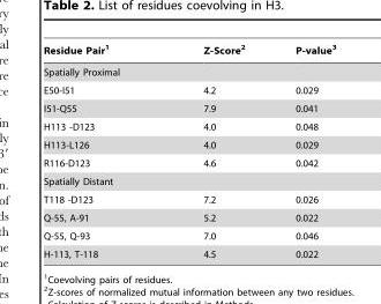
<table><thead><tr><td>Residue Pair<sup>1</sup></td><td>Z-Score<sup>2</sup></td><td>P-value<sup>3</sup></td></tr></thead><tbody><tr><td colspan="3">Spatially Proximal</td></tr><tr><td>E50-I51</td><td>4.2</td><td>0.029</td></tr><tr><td>I51-Q55</td><td>7.9</td><td>0.041</td></tr><tr><td>H113 -D123</td><td>4.0</td><td>0.048</td></tr><tr><td>H113-L126</td><td>4.0</td><td>0.029</td></tr><tr><td>R116-D123</td><td>4.6</td><td>0.042</td></tr><tr><td colspan="3">Spatially Distant</td></tr><tr><td>T118 -D123</td><td>7.2</td><td>0.026</td></tr><tr><td>Q-55, A-91</td><td>5.2</td><td>0.022</td></tr><tr><td>Q-55, Q-93</td><td>7.0</td><td>0.046</td></tr><tr><td>H-113, T-118</td><td>4.5</td><td>0.022</td></tr></tbody></table>